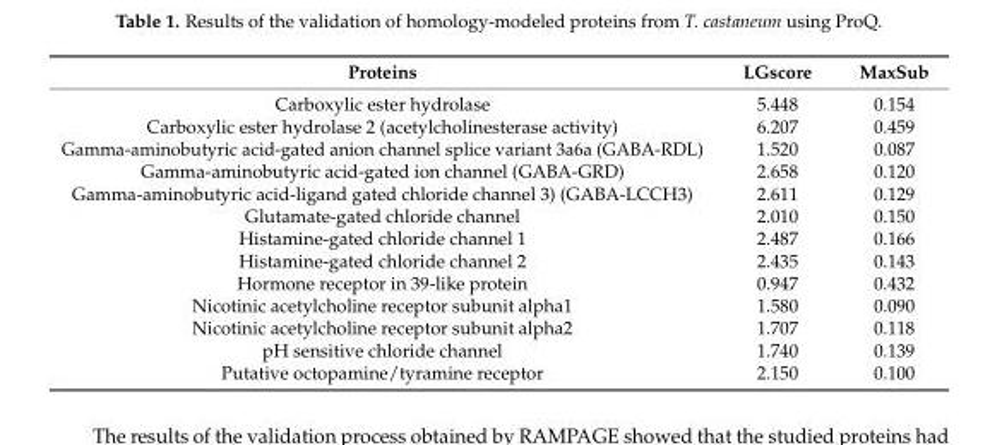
<table><thead><tr><td>Proteins</td><td>LGscore</td><td>MaxSub</td></tr></thead><tbody><tr><td>Carboxylic ester hydrolase</td><td>5.448</td><td>0.154</td></tr><tr><td>Carboxylic ester hydrolase 2 (acetylcholinesterase activity)</td><td>6.207</td><td>0.459</td></tr><tr><td>Gamma-aminobutyric acid-gated anion channel splice variant 3a6a (GABA-RDL)</td><td>1.520</td><td>0.087</td></tr><tr><td>Gamma-aminobutyric acid-gated ion channel (GABA-GRD)</td><td>2.658</td><td>0.120</td></tr><tr><td>Gamma-aminobutyric acid-ligand gated chloride channel 3) (GABA-LCCH3)</td><td>2.611</td><td>0.129</td></tr><tr><td>Glutamate-gated chloride channel</td><td>2.010</td><td>0.150</td></tr><tr><td>Histamine-gated chloride channel 1</td><td>2.487</td><td>0.166</td></tr><tr><td>Histamine-gated chloride channel 2</td><td>2.435</td><td>0.143</td></tr><tr><td>Hormone receptor in 39-like protein</td><td>0.947</td><td>0.432</td></tr><tr><td>Nicotinic acetylcholine receptor subunit alpha1</td><td>1.580</td><td>0.090</td></tr><tr><td>Nicotinic acetylcholine receptor subunit alpha2</td><td>1.707</td><td>0.118</td></tr><tr><td>pH sensitive chloride channel</td><td>1.740</td><td>0.139</td></tr><tr><td>Putative octopamine/tyramine receptor</td><td>2.150</td><td>0.100</td></tr></tbody></table>